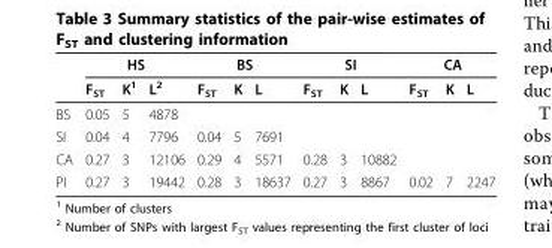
<table><thead><tr><td rowspan="2"></td><td colspan="3">HS</td><td colspan="3">BS</td><td colspan="3">SI</td><td colspan="3">CA</td></tr><tr><td>F<sub>ST</sub></td><td>K<sup>1</sup></td><td>L<sup>2</sup></td><td>F<sub>ST</sub></td><td>K</td><td>L</td><td>F<sub>ST</sub></td><td>K</td><td>L</td><td>F<sub>ST</sub></td><td>K</td><td>L</td></tr></thead><tbody><tr><td>BS</td><td>0.05</td><td>5</td><td>4878</td><td></td><td></td><td></td><td></td><td></td><td></td><td></td><td></td><td></td></tr><tr><td>SI</td><td>0.04</td><td>4</td><td>7796</td><td>0.04</td><td>5</td><td>7691</td><td></td><td></td><td></td><td></td><td></td><td></td></tr><tr><td>CA</td><td>0.27</td><td>3</td><td>12106</td><td>0.29</td><td>4</td><td>5571</td><td>0.28</td><td>3</td><td>10882</td><td></td><td></td><td></td></tr><tr><td>PI</td><td>0.27</td><td>3</td><td>19442</td><td>0.28</td><td>3</td><td>18637</td><td>0.27</td><td>3</td><td>8867</td><td>0.02</td><td>7</td><td>2247</td></tr></tbody></table>